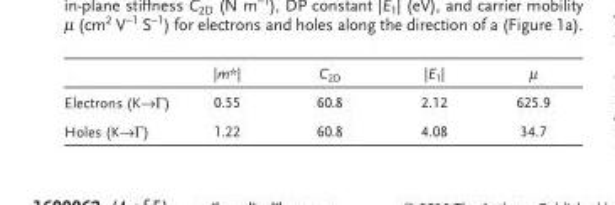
<table><thead><tr><td></td><td>| m *|</td><td>C <sub>2D</sub></td><td>| E <sub>1</sub> |</td><td>μ</td></tr></thead><tbody><tr><td>Electrons (K→Γ)</td><td>0.55</td><td>60.8</td><td>2.12</td><td>625.9</td></tr><tr><td>Holes (K→Γ)</td><td>1.22</td><td>60.8</td><td>4.08</td><td>34.7</td></tr></tbody></table>